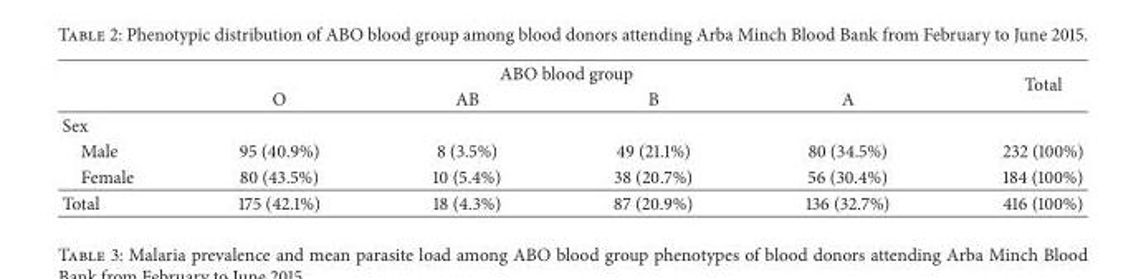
<table><thead><tr><td rowspan="2"></td><td colspan="4">ABO blood group</td><td rowspan="2">Total</td></tr><tr><td>O</td><td>AB</td><td>B</td><td>A</td></tr></thead><tbody><tr><td colspan="6">Sex</td></tr><tr><td>Male</td><td>95 (40.9%)</td><td>8 (3.5%)</td><td>49 (21.1%)</td><td>80 (34.5%)</td><td>232 (100%)</td></tr><tr><td>Female</td><td>80 (43.5%)</td><td>10 (5.4%)</td><td>38 (20.7%)</td><td>56 (30.4%)</td><td>184 (100%)</td></tr><tr><td>Total</td><td>175 (42.1%)</td><td>18 (4.3%)</td><td>87 (20.9%)</td><td>136 (32.7%)</td><td>416 (100%)</td></tr></tbody></table>